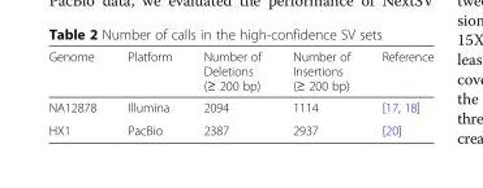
<table><thead><tr><td>Genome</td><td>Platform</td><td>Number of Deletions (≥ 200 bp)</td><td>Number of Insertions (≥ 200 bp)</td><td>Reference</td></tr></thead><tbody><tr><td>NA12878</td><td>Illumina</td><td>2094</td><td>1114</td><td>[17, 18]</td></tr><tr><td>HX1</td><td>PacBio</td><td>2387</td><td>2937</td><td>[20]</td></tr></tbody></table>